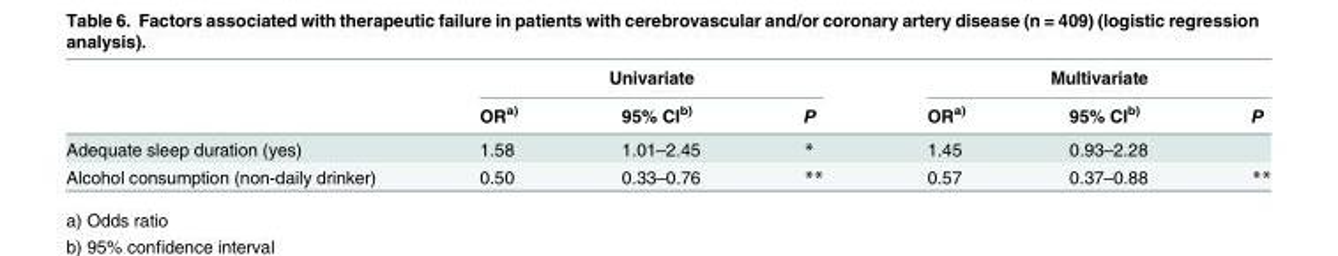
<table><thead><tr><td rowspan="2"></td><td colspan="3">Univariate</td><td colspan="3">Multivariate</td></tr><tr><td>OR<sup>a)</sup></td><td>95% CI<sup>b)</sup></td><td>P</td><td>OR<sup>a)</sup></td><td>95% CI<sup>b)</sup></td><td>P</td></tr></thead><tbody><tr><td>Adequate sleep duration (yes)</td><td>1.58</td><td>1.01–2.45</td><td>*</td><td>1.45</td><td>0.93–2.28</td><td></td></tr><tr><td>Alcohol consumption (non-daily drinker)</td><td>0.50</td><td>0.33–0.76</td><td>**</td><td>0.57</td><td>0.37–0.88</td><td>**</td></tr></tbody></table>